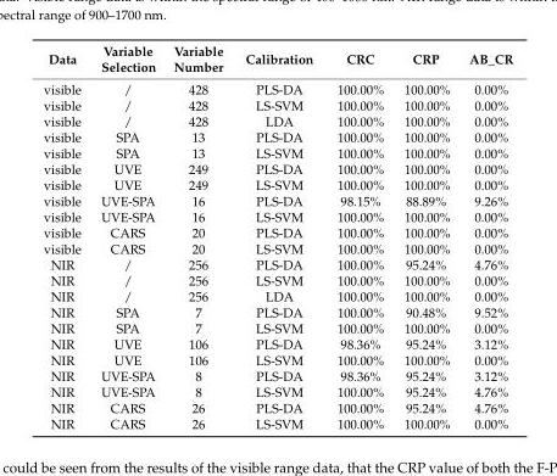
<table><thead><tr><td>Data</td><td>Variable Selection</td><td>Variable Number</td><td>Calibration</td><td>CRC</td><td>CRP</td><td>AB_CR</td></tr></thead><tbody><tr><td>visible</td><td>/</td><td>428</td><td>PLS-DA</td><td>100.00%</td><td>100.00%</td><td>0.00%</td></tr><tr><td>visible</td><td>/</td><td>428</td><td>LS-SVM</td><td>100.00%</td><td>100.00%</td><td>0.00%</td></tr><tr><td>visible</td><td>/</td><td>428</td><td>LDA</td><td>100.00%</td><td>100.00%</td><td>0.00%</td></tr><tr><td>visible</td><td>SPA</td><td>13</td><td>PLS-DA</td><td>100.00%</td><td>100.00%</td><td>0.00%</td></tr><tr><td>visible</td><td>SPA</td><td>13</td><td>LS-SVM</td><td>100.00%</td><td>100.00%</td><td>0.00%</td></tr><tr><td>visible</td><td>UVE</td><td>249</td><td>PLS-DA</td><td>100.00%</td><td>100.00%</td><td>0.00%</td></tr><tr><td>visible</td><td>UVE</td><td>249</td><td>LS-SVM</td><td>100.00%</td><td>100.00%</td><td>0.00%</td></tr><tr><td>visible</td><td>UVE-SPA</td><td>16</td><td>PLS-DA</td><td>98.15%</td><td>88.89%</td><td>9.26%</td></tr><tr><td>visible</td><td>UVE-SPA</td><td>16</td><td>LS-SVM</td><td>100.00%</td><td>100.00%</td><td>0.00%</td></tr><tr><td>visible</td><td>CARS</td><td>20</td><td>PLS-DA</td><td>100.00%</td><td>100.00%</td><td>0.00%</td></tr><tr><td>visible</td><td>CARS</td><td>20</td><td>LS-SVM</td><td>100.00%</td><td>100.00%</td><td>0.00%</td></tr><tr><td>NIR</td><td>/</td><td>256</td><td>PLS-DA</td><td>100.00%</td><td>95.24%</td><td>4.76%</td></tr><tr><td>NIR</td><td>/</td><td>256</td><td>LS-SVM</td><td>100.00%</td><td>100.00%</td><td>0.00%</td></tr><tr><td>NIR</td><td>/</td><td>256</td><td>LDA</td><td>100.00%</td><td>100.00%</td><td>0.00%</td></tr><tr><td>NIR</td><td>SPA</td><td>7</td><td>PLS-DA</td><td>100.00%</td><td>90.48%</td><td>9.52%</td></tr><tr><td>NIR</td><td>SPA</td><td>7</td><td>LS-SVM</td><td>100.00%</td><td>100.00%</td><td>0.00%</td></tr><tr><td>NIR</td><td>UVE</td><td>106</td><td>PLS-DA</td><td>98.36%</td><td>95.24%</td><td>3.12%</td></tr><tr><td>NIR</td><td>UVE</td><td>106</td><td>LS-SVM</td><td>100.00%</td><td>100.00%</td><td>0.00%</td></tr><tr><td>NIR</td><td>UVE-SPA</td><td>8</td><td>PLS-DA</td><td>98.36%</td><td>95.24%</td><td>3.12%</td></tr><tr><td>NIR</td><td>UVE-SPA</td><td>8</td><td>LS-SVM</td><td>100.00%</td><td>95.24%</td><td>4.76%</td></tr><tr><td>NIR</td><td>CARS</td><td>26</td><td>PLS-DA</td><td>100.00%</td><td>95.24%</td><td>4.76%</td></tr><tr><td>NIR</td><td>CARS</td><td>26</td><td>LS-SVM</td><td>100.00%</td><td>100.00%</td><td>0.00%</td></tr></tbody></table>